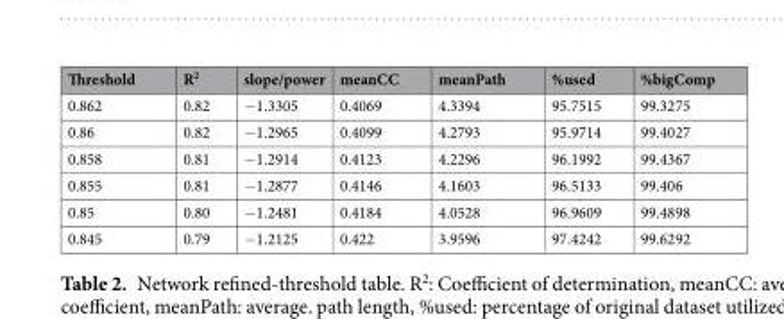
<table><thead><tr><td>Threshold</td><td>R<sup>2</sup></td><td>slope/power</td><td>meanCC</td><td>meanPath</td><td>%used</td><td>%bigComp</td></tr></thead><tbody><tr><td>0.862</td><td>0.82</td><td>−1.3305</td><td>0.4069</td><td>4.3394</td><td>95.7515</td><td>99.3275</td></tr><tr><td>0.86</td><td>0.82</td><td>−1.2965</td><td>0.4099</td><td>4.2793</td><td>95.9714</td><td>99.4027</td></tr><tr><td>0.858</td><td>0.81</td><td>−1.2914</td><td>0.4123</td><td>4.2296</td><td>96.1992</td><td>99.4367</td></tr><tr><td>0.855</td><td>0.81</td><td>−1.2877</td><td>0.4146</td><td>4.1603</td><td>96.5133</td><td>99.406</td></tr><tr><td>0.85</td><td>0.80</td><td>−1.2481</td><td>0.4184</td><td>4.0528</td><td>96.9609</td><td>99.4898</td></tr><tr><td>0.845</td><td>0.79</td><td>−1.2125</td><td>0.422</td><td>3.9596</td><td>97.4242</td><td>99.6292</td></tr></tbody></table>